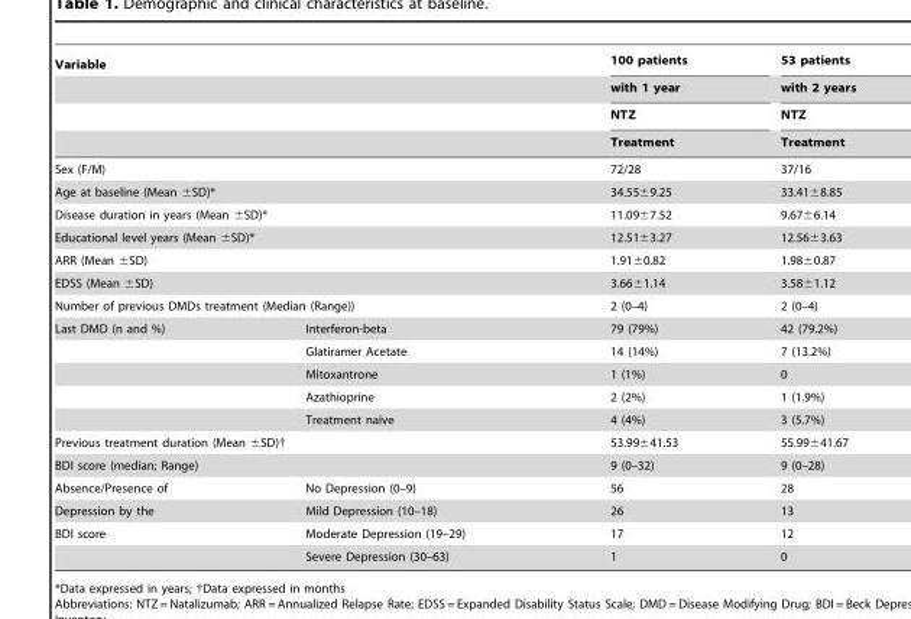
<table><thead><tr><td colspan="2">Variable</td><td rowspan="4">100 patients with 1 year NTZ Treatment</td><td rowspan="4">53 patients with 2 years NTZ Treatment</td></tr><tr><td rowspan="3"></td><td rowspan="3"></td></tr><tr></tr><tr></tr></thead><tbody><tr><td colspan="2">Sex (F/M)</td><td>72/28</td><td>37/16</td></tr><tr><td colspan="2">Age at baseline (Mean ±SD)*</td><td>34.55±9.25</td><td>33.41±8.85</td></tr><tr><td colspan="2">Disease duration in years (Mean ±SD)*</td><td>11.09±7.52</td><td>9.67±6.14</td></tr><tr><td colspan="2">Educational level years (Mean ±SD)*</td><td>12.51±3.27</td><td>12.56±3.63</td></tr><tr><td colspan="2">ARR (Mean ±SD)</td><td>1.91±0.82</td><td>1.98±0.87</td></tr><tr><td colspan="2">EDSS (Mean ±SD)</td><td>3.66±1.14</td><td>3.58±1.12</td></tr><tr><td colspan="2">Number of previous DMDs treatment (Median (Range))</td><td>2 (0–4)</td><td>2 (0–4)</td></tr><tr><td rowspan="5">Last DMD (n and %)</td><td>Interferon-beta</td><td>79 (79%)</td><td>42 (79.2%)</td></tr><tr><td>Glatiramer Acetate</td><td>14 (14%)</td><td>7 (13.2%)</td></tr><tr><td>Mitoxantrone</td><td>1 (1%)</td><td>0</td></tr><tr><td>Azathioprine</td><td>2 (2%)</td><td>1 (1.9%)</td></tr><tr><td>Treatment naı¨ve</td><td>4 (4%)</td><td>3 (5.7%)</td></tr><tr><td colspan="2">Previous treatment duration (Mean ±SD)†</td><td>53.99±41.53</td><td>55.99±41.67</td></tr><tr><td colspan="2">BDI score (median; Range)</td><td>9 (0–32)</td><td>9 (0–28)</td></tr><tr><td>Absence/Presence of</td><td>No Depression (0–9)</td><td>56</td><td>28</td></tr><tr><td>Depression by the</td><td>Mild Depression (10–18)</td><td>26</td><td>13</td></tr><tr><td rowspan="2">BDI score</td><td>Moderate Depression (19–29)</td><td>17</td><td>12</td></tr><tr><td>Severe Depression (30–63)</td><td>1</td><td>0</td></tr></tbody></table>